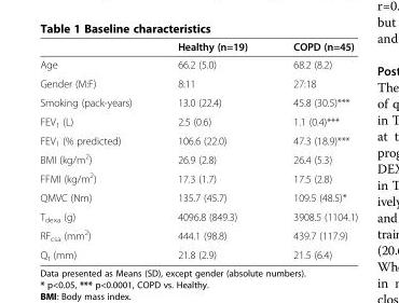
<table><thead><tr><td></td><td>Healthy (n=19)</td><td>COPD (n=45)</td></tr></thead><tbody><tr><td>Age</td><td>66.2 (5.0)</td><td>68.2 (8.2)</td></tr><tr><td>Gender (M:F)</td><td>8:11</td><td>27:18</td></tr><tr><td>Smoking (pack-years)</td><td>13.0 (22.4)</td><td>45.8 (30.5)***</td></tr><tr><td>FEV<sub>1</sub> (L)</td><td>2.5 (0.6)</td><td>1.1 (0.4)***</td></tr><tr><td>FEV<sub>1</sub> (% predicted)</td><td>106.6 (22.0)</td><td>47.3 (18.9)***</td></tr><tr><td>BMI (kg/m<sup>2</sup>)</td><td>26.9 (2.8)</td><td>26.4 (5.3)</td></tr><tr><td>FFMI (kg/m<sup>2</sup>)</td><td>17.3 (1.7)</td><td>17.5 (2.8)</td></tr><tr><td>QMVC (Nm)</td><td>135.7 (45.7)</td><td>109.5 (48.5)*</td></tr><tr><td>T<sub>dexa</sub> (g)</td><td>4096.8 (849.3)</td><td>3908.5 (1104.1)</td></tr><tr><td>RF<sub>csa</sub> (mm<sup>2</sup>)</td><td>444.1 (98.8)</td><td>439.7 (117.9)</td></tr><tr><td>Q<sub>t</sub> (mm)</td><td>21.8 (2.9)</td><td>21.5 (6.4)</td></tr></tbody></table>